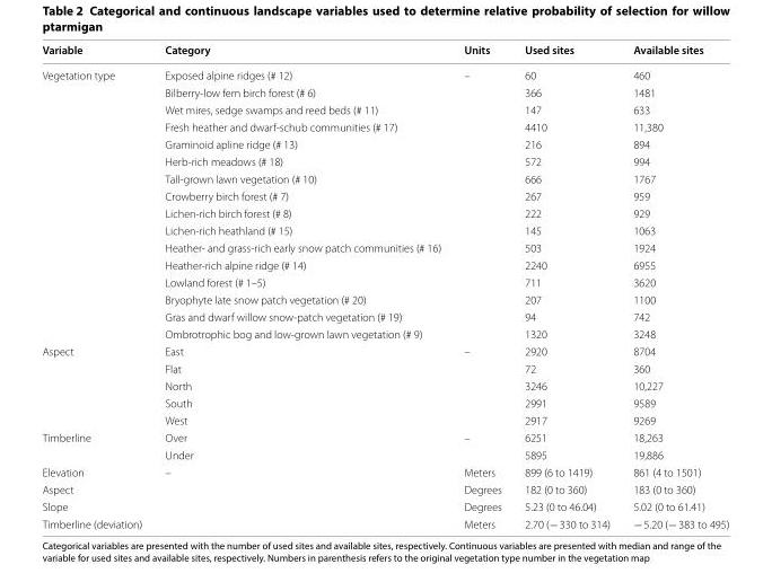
<table><thead><tr><td>Variable</td><td>Category</td><td>Units</td><td>Used sites</td><td>Available sites</td></tr></thead><tbody><tr><td rowspan="16">Vegetation type</td><td>Exposed alpine ridges (# 12)</td><td rowspan="16">–</td><td>60</td><td>460</td></tr><tr><td>Bilberry-low fern birch forest (# 6)</td><td>366</td><td>1481</td></tr><tr><td>Wet mires, sedge swamps and reed beds (# 11)</td><td>147</td><td>633</td></tr><tr><td>Fresh heather and dwarf-schub communities (# 17)</td><td>4410</td><td>11,380</td></tr><tr><td>Graminoid apline ridge (# 13)</td><td>216</td><td>894</td></tr><tr><td>Herb-rich meadows (# 18)</td><td>572</td><td>994</td></tr><tr><td>Tall-grown lawn vegetation (# 10)</td><td>666</td><td>1767</td></tr><tr><td>Crowberry birch forest (# 7)</td><td>267</td><td>959</td></tr><tr><td>Lichen-rich birch forest (# 8)</td><td>222</td><td>929</td></tr><tr><td>Lichen-rich heathland (# 15)</td><td>145</td><td>1063</td></tr><tr><td>Heather- and grass-rich early snow patch communities (# 16)</td><td>503</td><td>1924</td></tr><tr><td>Heather-rich alpine ridge (# 14)</td><td>2240</td><td>6955</td></tr><tr><td>Lowland forest (# 1–5)</td><td>711</td><td>3620</td></tr><tr><td>Bryophyte late snow patch vegetation (# 20)</td><td>207</td><td>1100</td></tr><tr><td>Gras and dwarf willow snow-patch vegetation (# 19)</td><td>94</td><td>742</td></tr><tr><td>Ombrotrophic bog and low-grown lawn vegetation (# 9)</td><td>1320</td><td>3248</td></tr><tr><td rowspan="5">Aspect</td><td>East</td><td rowspan="5">–</td><td>2920</td><td>8704</td></tr><tr><td>Flat</td><td>72</td><td>360</td></tr><tr><td>North</td><td>3246</td><td>10,227</td></tr><tr><td>South</td><td>2991</td><td>9589</td></tr><tr><td>West</td><td>2917</td><td>9269</td></tr><tr><td rowspan="2">Timberline</td><td>Over</td><td rowspan="2">–</td><td>6251</td><td>18,263</td></tr><tr><td>Under</td><td>5895</td><td>19,886</td></tr><tr><td>Elevation</td><td rowspan="4">–</td><td>Meters</td><td>899 (6 to 1419)</td><td>861 (4 to 1501)</td></tr><tr><td>Aspect</td><td>Degrees</td><td>182 (0 to 360)</td><td>183 (0 to 360)</td></tr><tr><td>Slope</td><td>Degrees</td><td>5.23 (0 to 46.04)</td><td>5.02 (0 to 61.41)</td></tr><tr><td>Timberline (deviation)</td><td>Meters</td><td>2.70 (− 330 to 314)</td><td>− 5.20 (− 383 to 495)</td></tr></tbody></table>